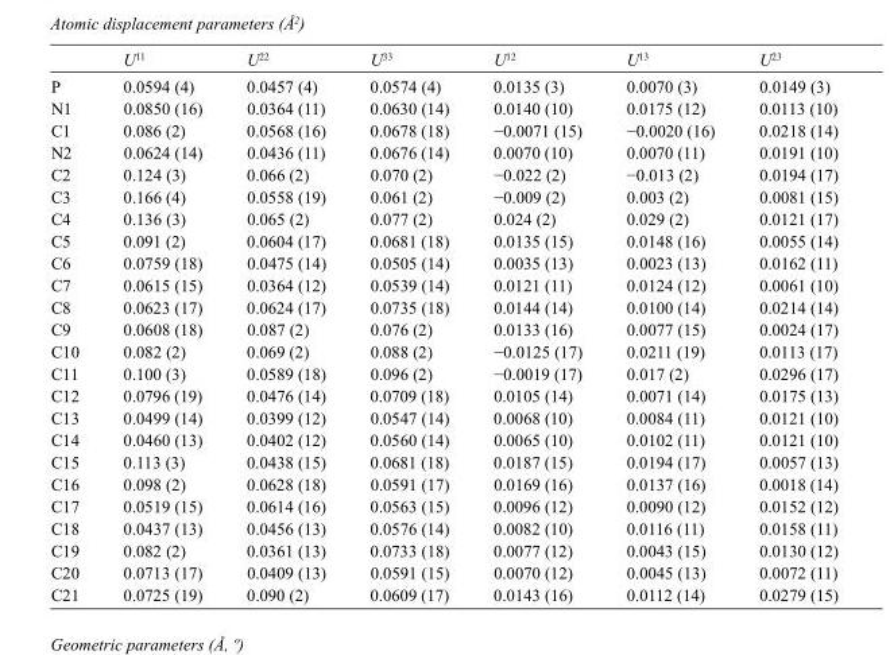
<table><thead><tr><td></td><td>U<sup>11</sup></td><td>U<sup>22</sup></td><td>U<sup>33</sup></td><td>U<sup>12</sup></td><td>U<sup>13</sup></td><td>U<sup>23</sup></td></tr></thead><tbody><tr><td>P</td><td>0.0594 (4)</td><td>0.0457 (4)</td><td>0.0574 (4)</td><td>0.0135 (3)</td><td>0.0070 (3)</td><td>0.0149 (3)</td></tr><tr><td>N1</td><td>0.0850 (16)</td><td>0.0364 (11)</td><td>0.0630 (14)</td><td>0.0140 (10)</td><td>0.0175 (12)</td><td>0.0113 (10)</td></tr><tr><td>C1</td><td>0.086 (2)</td><td>0.0568 (16)</td><td>0.0678 (18)</td><td>−0.0071 (15)</td><td>−0.0020 (16)</td><td>0.0218 (14)</td></tr><tr><td>N2</td><td>0.0624 (14)</td><td>0.0436 (11)</td><td>0.0676 (14)</td><td>0.0070 (10)</td><td>0.0070 (11)</td><td>0.0191 (10)</td></tr><tr><td>C2</td><td>0.124 (3)</td><td>0.066 (2)</td><td>0.070 (2)</td><td>−0.022 (2)</td><td>−0.013 (2)</td><td>0.0194 (17)</td></tr><tr><td>C3</td><td>0.166 (4)</td><td>0.0558 (19)</td><td>0.061 (2)</td><td>−0.009 (2)</td><td>0.003 (2)</td><td>0.0081 (15)</td></tr><tr><td>C4</td><td>0.136 (3)</td><td>0.065 (2)</td><td>0.077 (2)</td><td>0.024 (2)</td><td>0.029 (2)</td><td>0.0121 (17)</td></tr><tr><td>C5</td><td>0.091 (2)</td><td>0.0604 (17)</td><td>0.0681 (18)</td><td>0.0135 (15)</td><td>0.0148 (16)</td><td>0.0055 (14)</td></tr><tr><td>C6</td><td>0.0759 (18)</td><td>0.0475 (14)</td><td>0.0505 (14)</td><td>0.0035 (13)</td><td>0.0023 (13)</td><td>0.0162 (11)</td></tr><tr><td>C7</td><td>0.0615 (15)</td><td>0.0364 (12)</td><td>0.0539 (14)</td><td>0.0121 (11)</td><td>0.0124 (12)</td><td>0.0061 (10)</td></tr><tr><td>C8</td><td>0.0623 (17)</td><td>0.0624 (17)</td><td>0.0735 (18)</td><td>0.0144 (14)</td><td>0.0100 (14)</td><td>0.0214 (14)</td></tr><tr><td>C9</td><td>0.0608 (18)</td><td>0.087 (2)</td><td>0.076 (2)</td><td>0.0133 (16)</td><td>0.0077 (15)</td><td>0.0024 (17)</td></tr><tr><td>C10</td><td>0.082 (2)</td><td>0.069 (2)</td><td>0.088 (2)</td><td>−0.0125 (17)</td><td>0.0211 (19)</td><td>0.0113 (17)</td></tr><tr><td>C11</td><td>0.100 (3)</td><td>0.0589 (18)</td><td>0.096 (2)</td><td>−0.0019 (17)</td><td>0.017 (2)</td><td>0.0296 (17)</td></tr><tr><td>C12</td><td>0.0796 (19)</td><td>0.0476 (14)</td><td>0.0709 (18)</td><td>0.0105 (14)</td><td>0.0071 (14)</td><td>0.0175 (13)</td></tr><tr><td>C13</td><td>0.0499 (14)</td><td>0.0399 (12)</td><td>0.0547 (14)</td><td>0.0068 (10)</td><td>0.0084 (11)</td><td>0.0121 (10)</td></tr><tr><td>C14</td><td>0.0460 (13)</td><td>0.0402 (12)</td><td>0.0560 (14)</td><td>0.0065 (10)</td><td>0.0102 (11)</td><td>0.0121 (10)</td></tr><tr><td>C15</td><td>0.113 (3)</td><td>0.0438 (15)</td><td>0.0681 (18)</td><td>0.0187 (15)</td><td>0.0194 (17)</td><td>0.0057 (13)</td></tr><tr><td>C16</td><td>0.098 (2)</td><td>0.0628 (18)</td><td>0.0591 (17)</td><td>0.0169 (16)</td><td>0.0137 (16)</td><td>0.0018 (14)</td></tr><tr><td>C17</td><td>0.0519 (15)</td><td>0.0614 (16)</td><td>0.0563 (15)</td><td>0.0096 (12)</td><td>0.0090 (12)</td><td>0.0152 (12)</td></tr><tr><td>C18</td><td>0.0437 (13)</td><td>0.0456 (13)</td><td>0.0576 (14)</td><td>0.0082 (10)</td><td>0.0116 (11)</td><td>0.0158 (11)</td></tr><tr><td>C19</td><td>0.082 (2)</td><td>0.0361 (13)</td><td>0.0733 (18)</td><td>0.0077 (12)</td><td>0.0043 (15)</td><td>0.0130 (12)</td></tr><tr><td>C20</td><td>0.0713 (17)</td><td>0.0409 (13)</td><td>0.0591 (15)</td><td>0.0070 (12)</td><td>0.0045 (13)</td><td>0.0072 (11)</td></tr><tr><td>C21</td><td>0.0725 (19)</td><td>0.090 (2)</td><td>0.0609 (17)</td><td>0.0143 (16)</td><td>0.0112 (14)</td><td>0.0279 (15)</td></tr></tbody></table>